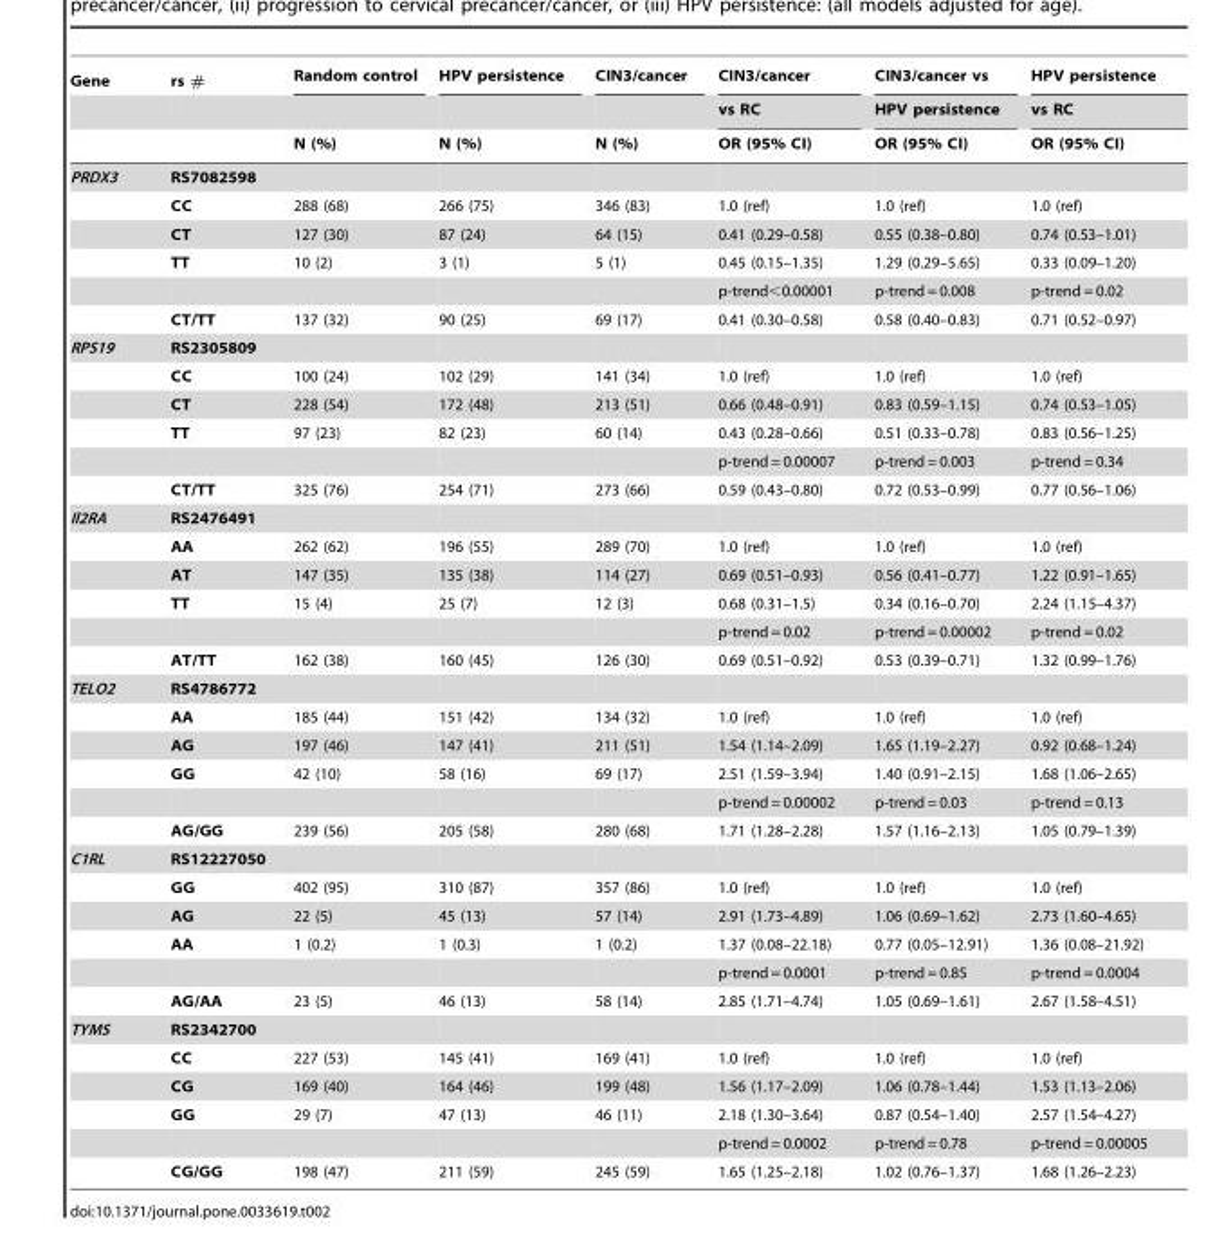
<table><thead><tr><td rowspan="3">Gene</td><td rowspan="3">rs #</td><td rowspan="3">Random control N (%)</td><td rowspan="3">HPV persistence N (%)</td><td rowspan="3">CIN3/cancer N (%)</td><td rowspan="3">CIN3/cancer vs RC OR (95% CI)</td><td rowspan="3">CIN3/cancer vs HPV persistence OR (95% CI)</td><td rowspan="3">HPV persistence vs RC OR (95% CI)</td></tr><tr></tr><tr></tr></thead><tbody><tr><td rowspan="6">PRDX3</td><td>RS7082598</td><td></td><td></td><td></td><td></td><td></td><td></td></tr><tr><td>CC</td><td>288 (68)</td><td>266 (75)</td><td>346 (83)</td><td>1.0 (ref)</td><td>1.0 (ref)</td><td>1.0 (ref)</td></tr><tr><td>CT</td><td>127 (30)</td><td>87 (24)</td><td>64 (15)</td><td>0.41 (0.29–0.58)</td><td>0.55 (0.38–0.80)</td><td>0.74 (0.53–1.01)</td></tr><tr><td>TT</td><td>10 (2)</td><td>3 (1)</td><td>5 (1)</td><td>0.45 (0.15–1.35)</td><td>1.29 (0.29–5.65)</td><td>0.33 (0.09–1.20)</td></tr><tr><td></td><td></td><td></td><td></td><td>p-trend&lt;0.00001</td><td>p-trend = 0.008</td><td>p-trend = 0.02</td></tr><tr><td>CT/TT</td><td>137 (32)</td><td>90 (25)</td><td>69 (17)</td><td>0.41 (0.30–0.58)</td><td>0.58 (0.40–0.83)</td><td>0.71 (0.52–0.97)</td></tr><tr><td rowspan="6">RPS19</td><td>RS2305809</td><td></td><td></td><td></td><td></td><td></td><td></td></tr><tr><td>CC</td><td>100 (24)</td><td>102 (29)</td><td>141 (34)</td><td>1.0 (ref)</td><td>1.0 (ref)</td><td>1.0 (ref)</td></tr><tr><td>CT</td><td>228 (54)</td><td>172 (48)</td><td>213 (51)</td><td>0.66 (0.48–0.91)</td><td>0.83 (0.59–1.15)</td><td>0.74 (0.53–1.05)</td></tr><tr><td>TT</td><td>97 (23)</td><td>82 (23)</td><td>60 (14)</td><td>0.43 (0.28–0.66)</td><td>0.51 (0.33–0.78)</td><td>0.83 (0.56–1.25)</td></tr><tr><td></td><td></td><td></td><td></td><td>p-trend = 0.00007</td><td>p-trend = 0.003</td><td>p-trend = 0.34</td></tr><tr><td>CT/TT</td><td>325 (76)</td><td>254 (71)</td><td>273 (66)</td><td>0.59 (0.43–0.80)</td><td>0.72 (0.53–0.99)</td><td>0.77 (0.56–1.06)</td></tr><tr><td rowspan="6">Il2RA</td><td>RS2476491</td><td></td><td></td><td></td><td></td><td></td><td></td></tr><tr><td>AA</td><td>262 (62)</td><td>196 (55)</td><td>289 (70)</td><td>1.0 (ref)</td><td>1.0 (ref)</td><td>1.0 (ref)</td></tr><tr><td>AT</td><td>147 (35)</td><td>135 (38)</td><td>114 (27)</td><td>0.69 (0.51–0.93)</td><td>0.56 (0.41–0.77)</td><td>1.22 (0.91–1.65)</td></tr><tr><td>TT</td><td>15 (4)</td><td>25 (7)</td><td>12 (3)</td><td>0.68 (0.31–1.5)</td><td>0.34 (0.16–0.70)</td><td>2.24 (1.15–4.37)</td></tr><tr><td></td><td></td><td></td><td></td><td>p-trend = 0.02</td><td>p-trend = 0.00002</td><td>p-trend = 0.02</td></tr><tr><td>AT/TT</td><td>162 (38)</td><td>160 (45)</td><td>126 (30)</td><td>0.69 (0.51–0.92)</td><td>0.53 (0.39–0.71)</td><td>1.32 (0.99–1.76)</td></tr><tr><td rowspan="6">TELO2</td><td>RS4786772</td><td></td><td></td><td></td><td></td><td></td><td></td></tr><tr><td>AA</td><td>185 (44)</td><td>151 (42)</td><td>134 (32)</td><td>1.0 (ref)</td><td>1.0 (ref)</td><td>1.0 (ref)</td></tr><tr><td>AG</td><td>197 (46)</td><td>147 (41)</td><td>211 (51)</td><td>1.54 (1.14–2.09)</td><td>1.65 (1.19–2.27)</td><td>0.92 (0.68–1.24)</td></tr><tr><td>GG</td><td>42 (10)</td><td>58 (16)</td><td>69 (17)</td><td>2.51 (1.59–3.94)</td><td>1.40 (0.91–2.15)</td><td>1.68 (1.06–2.65)</td></tr><tr><td></td><td></td><td></td><td></td><td>p-trend = 0.00002</td><td>p-trend = 0.03</td><td>p-trend = 0.13</td></tr><tr><td>AG/GG</td><td>239 (56)</td><td>205 (58)</td><td>280 (68)</td><td>1.71 (1.28–2.28)</td><td>1.57 (1.16–2.13)</td><td>1.05 (0.79–1.39)</td></tr><tr><td rowspan="6">C1RL</td><td>RS12227050</td><td></td><td></td><td></td><td></td><td></td><td></td></tr><tr><td>GG</td><td>402 (95)</td><td>310 (87)</td><td>357 (86)</td><td>1.0 (ref)</td><td>1.0 (ref)</td><td>1.0 (ref)</td></tr><tr><td>AG</td><td>22 (5)</td><td>45 (13)</td><td>57 (14)</td><td>2.91 (1.73–4.89)</td><td>1.06 (0.69–1.62)</td><td>2.73 (1.60–4.65)</td></tr><tr><td>AA</td><td>1 (0.2)</td><td>1 (0.3)</td><td>1 (0.2)</td><td>1.37 (0.08–22.18)</td><td>0.77 (0.05–12.91)</td><td>1.36 (0.08–21.92)</td></tr><tr><td></td><td></td><td></td><td></td><td>p-trend = 0.0001</td><td>p-trend = 0.85</td><td>p-trend = 0.0004</td></tr><tr><td>AG/AA</td><td>23 (5)</td><td>46 (13)</td><td>58 (14)</td><td>2.85 (1.71–4.74)</td><td>1.05 (0.69–1.61)</td><td>2.67 (1.58–4.51)</td></tr><tr><td rowspan="6">TYMS</td><td>RS2342700</td><td></td><td></td><td></td><td></td><td></td><td></td></tr><tr><td>CC</td><td>227 (53)</td><td>145 (41)</td><td>169 (41)</td><td>1.0 (ref)</td><td>1.0 (ref)</td><td>1.0 (ref)</td></tr><tr><td>CG</td><td>169 (40)</td><td>164 (46)</td><td>199 (48)</td><td>1.56 (1.17–2.09)</td><td>1.06 (0.78–1.44)</td><td>1.53 (1.13–2.06)</td></tr><tr><td>GG</td><td>29 (7)</td><td>47 (13)</td><td>46 (11)</td><td>2.18 (1.30–3.64)</td><td>0.87 (0.54–1.40)</td><td>2.57 (1.54–4.27)</td></tr><tr><td></td><td></td><td></td><td></td><td>p-trend = 0.0002</td><td>p-trend = 0.78</td><td>p-trend = 0.00005</td></tr><tr><td>CG/GG</td><td>198 (47)</td><td>211 (59)</td><td>245 (59)</td><td>1.65 (1.25–2.18)</td><td>1.02 (0.76–1.37)</td><td>1.68 (1.26–2.23)</td></tr></tbody></table>